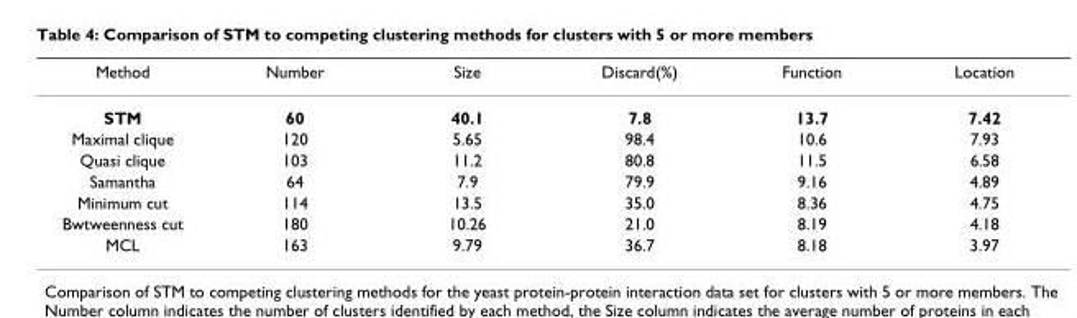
<table><thead><tr><td>Method</td><td>Number</td><td>Size</td><td>Discard(%)</td><td>Function</td><td>Location</td></tr></thead><tbody><tr><td>STM</td><td>60</td><td>40.1</td><td>7.8</td><td>13.7</td><td>7.42</td></tr><tr><td>Maximal clique</td><td>120</td><td>5.65</td><td>98.4</td><td>10.6</td><td>7.93</td></tr><tr><td>Quasi clique</td><td>103</td><td>11.2</td><td>80.8</td><td>11.5</td><td>6.58</td></tr><tr><td>Samantha</td><td>64</td><td>7.9</td><td>79.9</td><td>9.16</td><td>4.89</td></tr><tr><td>Minimum cut</td><td>114</td><td>13.5</td><td>35.0</td><td>8.36</td><td>4.75</td></tr><tr><td>Bwtweenness cut</td><td>180</td><td>10.26</td><td>21.0</td><td>8.19</td><td>4.18</td></tr><tr><td>MCL</td><td>163</td><td>9.79</td><td>36.7</td><td>8.18</td><td>3.97</td></tr></tbody></table>